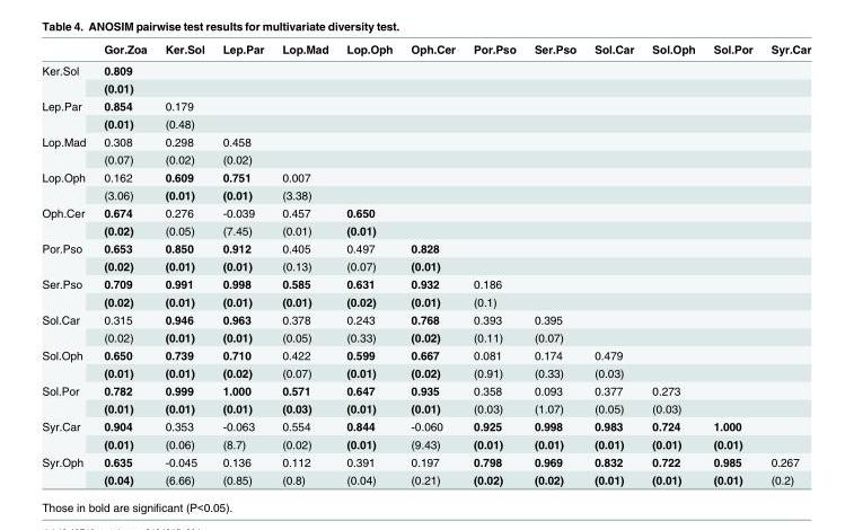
<table><thead><tr><td></td><td>Gor.Zoa</td><td>Ker.Sol</td><td>Lep.Par</td><td>Lop.Mad</td><td>Lop.Oph</td><td>Oph.Cer</td><td>Por.Pso</td><td>Ser.Pso</td><td>Sol.Car</td><td>Sol.Oph</td><td>Sol.Por</td><td>Syr.Car</td></tr></thead><tbody><tr><td rowspan="2">Ker.Sol</td><td>0.809</td><td></td><td></td><td></td><td></td><td></td><td></td><td></td><td></td><td></td><td></td><td></td></tr><tr><td>(0.01)</td><td></td><td></td><td></td><td></td><td></td><td></td><td></td><td></td><td></td><td></td><td></td></tr><tr><td rowspan="2">Lep.Par</td><td>0.854</td><td>0.179</td><td></td><td></td><td></td><td></td><td></td><td></td><td></td><td></td><td></td><td></td></tr><tr><td>(0.01)</td><td>(0.48)</td><td></td><td></td><td></td><td></td><td></td><td></td><td></td><td></td><td></td><td></td></tr><tr><td rowspan="2">Lop.Mad</td><td>0.308</td><td>0.298</td><td>0.458</td><td></td><td></td><td></td><td></td><td></td><td></td><td></td><td></td><td></td></tr><tr><td>(0.07)</td><td>(0.02)</td><td>(0.02)</td><td></td><td></td><td></td><td></td><td></td><td></td><td></td><td></td><td></td></tr><tr><td rowspan="2">Lop.Oph</td><td>0.162</td><td>0.609</td><td>0.751</td><td>0.007</td><td></td><td></td><td></td><td></td><td></td><td></td><td></td><td></td></tr><tr><td>(3.06)</td><td>(0.01)</td><td>(0.01)</td><td>(3.38)</td><td></td><td></td><td></td><td></td><td></td><td></td><td></td><td></td></tr><tr><td rowspan="2">Oph.Cer</td><td>0.674</td><td>0.276</td><td>-0.039</td><td>0.457</td><td>0.650</td><td></td><td></td><td></td><td></td><td></td><td></td><td></td></tr><tr><td>(0.02)</td><td>(0.05)</td><td>(7.45)</td><td>(0.01)</td><td>(0.01)</td><td></td><td></td><td></td><td></td><td></td><td></td><td></td></tr><tr><td rowspan="2">Por.Pso</td><td>0.653</td><td>0.850</td><td>0.912</td><td>0.405</td><td>0.497</td><td>0.828</td><td></td><td></td><td></td><td></td><td></td><td></td></tr><tr><td>(0.02)</td><td>(0.01)</td><td>(0.01)</td><td>(0.13)</td><td>(0.07)</td><td>(0.01)</td><td></td><td></td><td></td><td></td><td></td><td></td></tr><tr><td rowspan="2">Ser.Pso</td><td>0.709</td><td>0.991</td><td>0.998</td><td>0.585</td><td>0.631</td><td>0.932</td><td>0.186</td><td></td><td></td><td></td><td></td><td></td></tr><tr><td>(0.02)</td><td>(0.01)</td><td>(0.01)</td><td>(0.01)</td><td>(0.02)</td><td>(0.01)</td><td>(0.1)</td><td></td><td></td><td></td><td></td><td></td></tr><tr><td rowspan="2">Sol.Car</td><td>0.315</td><td>0.946</td><td>0.963</td><td>0.378</td><td>0.243</td><td>0.768</td><td>0.393</td><td>0.395</td><td></td><td></td><td></td><td></td></tr><tr><td>(0.02)</td><td>(0.01)</td><td>(0.01)</td><td>(0.05)</td><td>(0.33)</td><td>(0.02)</td><td>(0.11)</td><td>(0.07)</td><td></td><td></td><td></td><td></td></tr><tr><td rowspan="2">Sol.Oph</td><td>0.650</td><td>0.739</td><td>0.710</td><td>0.422</td><td>0.599</td><td>0.667</td><td>0.081</td><td>0.174</td><td>0.479</td><td></td><td></td><td></td></tr><tr><td>(0.01)</td><td>(0.01)</td><td>(0.02)</td><td>(0.07)</td><td>(0.01)</td><td>(0.02)</td><td>(0.91)</td><td>(0.33)</td><td>(0.03)</td><td></td><td></td><td></td></tr><tr><td rowspan="2">Sol.Por</td><td>0.782</td><td>0.999</td><td>1.000</td><td>0.571</td><td>0.647</td><td>0.935</td><td>0.358</td><td>0.093</td><td>0.377</td><td>0.273</td><td></td><td></td></tr><tr><td>(0.01)</td><td>(0.01)</td><td>(0.01)</td><td>(0.03)</td><td>(0.01)</td><td>(0.01)</td><td>(0.03)</td><td>(1.07)</td><td>(0.05)</td><td>(0.03)</td><td></td><td></td></tr><tr><td rowspan="2">Syr.Car</td><td>0.904</td><td>0.353</td><td>-0.063</td><td>0.554</td><td>0.844</td><td>-0.060</td><td>0.925</td><td>0.998</td><td>0.983</td><td>0.724</td><td>1.000</td><td></td></tr><tr><td>(0.01)</td><td>(0.06)</td><td>(8.7)</td><td>(0.02)</td><td>(0.01)</td><td>(9.43)</td><td>(0.01)</td><td>(0.01)</td><td>(0.01)</td><td>(0.01)</td><td>(0.01)</td><td></td></tr><tr><td rowspan="2">Syr.Oph</td><td>0.635</td><td>-0.045</td><td>0.136</td><td>0.112</td><td>0.391</td><td>0.197</td><td>0.798</td><td>0.969</td><td>0.832</td><td>0.722</td><td>0.985</td><td>0.267</td></tr><tr><td>(0.04)</td><td>(6.66)</td><td>(0.85)</td><td>(0.8)</td><td>(0.04)</td><td>(0.21)</td><td>(0.02)</td><td>(0.02)</td><td>(0.01)</td><td>(0.01)</td><td>(0.01)</td><td>(0.2)</td></tr></tbody></table>